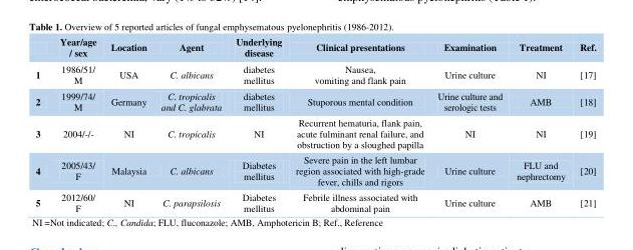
<table><thead><tr><td></td><td>Year/age / sex</td><td>Location</td><td>Agent</td><td>Underlying disease</td><td>Clinical presentations</td><td>Examination</td><td>Treatment</td><td>Ref.</td></tr></thead><tbody><tr><td>1</td><td>1986/51/ M</td><td>USA</td><td>C. albicans</td><td>diabetes mellitus</td><td>Nausea, vomiting and flank pain</td><td>Urine culture</td><td>NI</td><td>[17]</td></tr><tr><td>2</td><td>1999/74/ M</td><td>Germany</td><td>C. tropicalis and C. glabrata</td><td>diabetes mellitus</td><td>Stuporous mental condition</td><td>Urine culture and serologic tests</td><td>AMB</td><td>[18]</td></tr><tr><td>3</td><td>2004/-/-</td><td>NI</td><td>C. tropicalis</td><td>NI</td><td>Recurrent hematuria, flank pain, acute fulminant renal failure, and obstruction by a sloughed papilla</td><td>NI</td><td>NI</td><td>[19]</td></tr><tr><td>4</td><td>2005/43/ F</td><td>Malaysia</td><td>C. albicans</td><td>Diabetes mellitus</td><td>Severe pain in the left lumbar region associated with high-grade fever, chills and rigors</td><td>Urine culture</td><td>FLU and nephrectomy</td><td>[20]</td></tr><tr><td>5</td><td>2012/60/ F</td><td>NI</td><td>C. parapsilosis</td><td>Diabetes mellitus</td><td>Febrile illness associated with abdominal pain</td><td>Urine culture</td><td>AMB</td><td>[21]</td></tr></tbody></table>